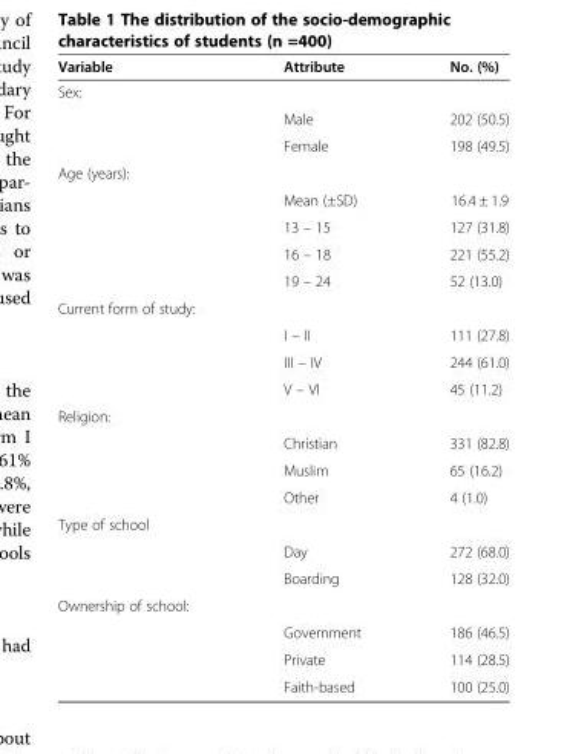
<table><thead><tr><td>Variable</td><td>Attribute</td><td>No. (%)</td></tr></thead><tbody><tr><td colspan="3">Sex:</td></tr><tr><td></td><td>Male</td><td>202 (50.5)</td></tr><tr><td></td><td>Female</td><td>198 (49.5)</td></tr><tr><td colspan="3">Age (years):</td></tr><tr><td></td><td>Mean (±SD)</td><td>16.4 ± 1.9</td></tr><tr><td></td><td>13 – 15</td><td>127 (31.8)</td></tr><tr><td></td><td>16 – 18</td><td>221 (55.2)</td></tr><tr><td></td><td>19 – 24</td><td>52 (13.0)</td></tr><tr><td colspan="3">Current form of study:</td></tr><tr><td></td><td>I – II</td><td>111 (27.8)</td></tr><tr><td></td><td>III – IV</td><td>244 (61.0)</td></tr><tr><td></td><td>V – VI</td><td>45 (11.2)</td></tr><tr><td colspan="3">Religion:</td></tr><tr><td></td><td>Christian</td><td>331 (82.8)</td></tr><tr><td></td><td>Muslim</td><td>65 (16.2)</td></tr><tr><td></td><td>Other</td><td>4 (1.0)</td></tr><tr><td colspan="3">Type of school</td></tr><tr><td></td><td>Day</td><td>272 (68.0)</td></tr><tr><td></td><td>Boarding</td><td>128 (32.0)</td></tr><tr><td colspan="3">Ownership of school:</td></tr><tr><td></td><td>Government</td><td>186 (46.5)</td></tr><tr><td></td><td>Private</td><td>114 (28.5)</td></tr><tr><td></td><td>Faith-based</td><td>100 (25.0)</td></tr></tbody></table>